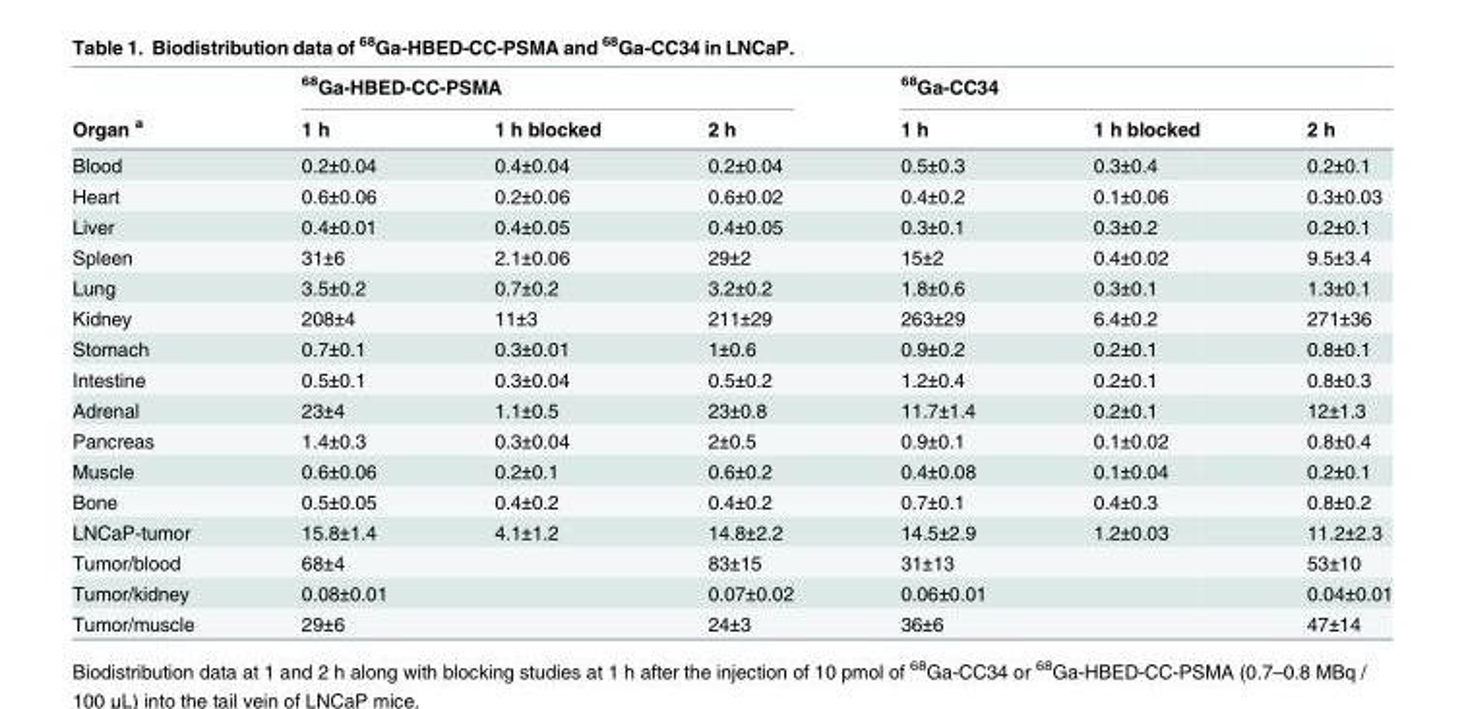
<table><thead><tr><td rowspan="2">Organ <sup>a</sup></td><td colspan="3"><sup>68</sup>Ga-HBED-CC-PSMA</td><td colspan="3"><sup>68</sup>Ga-CC34</td></tr><tr><td>1 h</td><td>1 h blocked</td><td>2 h</td><td>1 h</td><td>1 h blocked</td><td>2 h</td></tr></thead><tbody><tr><td>Blood</td><td>0.2±0.04</td><td>0.4±0.04</td><td>0.2±0.04</td><td>0.5±0.3</td><td>0.3±0.4</td><td>0.2±0.1</td></tr><tr><td>Heart</td><td>0.6±0.06</td><td>0.2±0.06</td><td>0.6±0.02</td><td>0.4±0.2</td><td>0.1±0.06</td><td>0.3±0.03</td></tr><tr><td>Liver</td><td>0.4±0.01</td><td>0.4±0.05</td><td>0.4±0.05</td><td>0.3±0.1</td><td>0.3±0.2</td><td>0.2±0.1</td></tr><tr><td>Spleen</td><td>31±6</td><td>2.1±0.06</td><td>29±2</td><td>15±2</td><td>0.4±0.02</td><td>9.5±3.4</td></tr><tr><td>Lung</td><td>3.5±0.2</td><td>0.7±0.2</td><td>3.2±0.2</td><td>1.8±0.6</td><td>0.3±0.1</td><td>1.3±0.1</td></tr><tr><td>Kidney</td><td>208±4</td><td>11±3</td><td>211±29</td><td>263±29</td><td>6.4±0.2</td><td>271±36</td></tr><tr><td>Stomach</td><td>0.7±0.1</td><td>0.3±0.01</td><td>1±0.6</td><td>0.9±0.2</td><td>0.2±0.1</td><td>0.8±0.1</td></tr><tr><td>Intestine</td><td>0.5±0.1</td><td>0.3±0.04</td><td>0.5±0.2</td><td>1.2±0.4</td><td>0.2±0.1</td><td>0.8±0.3</td></tr><tr><td>Adrenal</td><td>23±4</td><td>1.1±0.5</td><td>23±0.8</td><td>11.7±1.4</td><td>0.2±0.1</td><td>12±1.3</td></tr><tr><td>Pancreas</td><td>1.4±0.3</td><td>0.3±0.04</td><td>2±0.5</td><td>0.9±0.1</td><td>0.1±0.02</td><td>0.8±0.4</td></tr><tr><td>Muscle</td><td>0.6±0.06</td><td>0.2±0.1</td><td>0.6±0.2</td><td>0.4±0.08</td><td>0.1±0.04</td><td>0.2±0.1</td></tr><tr><td>Bone</td><td>0.5±0.05</td><td>0.4±0.2</td><td>0.4±0.2</td><td>0.7±0.1</td><td>0.4±0.3</td><td>0.8±0.2</td></tr><tr><td>LNCaP-tumor</td><td>15.8±1.4</td><td>4.1±1.2</td><td>14.8±2.2</td><td>14.5±2.9</td><td>1.2±0.03</td><td>11.2±2.3</td></tr><tr><td>Tumor/blood</td><td>68±4</td><td></td><td>83±15</td><td>31±13</td><td></td><td>53±10</td></tr><tr><td>Tumor/kidney</td><td>0.08±0.01</td><td></td><td>0.07±0.02</td><td>0.06±0.01</td><td></td><td>0.04±0.01</td></tr><tr><td>Tumor/muscle</td><td>29±6</td><td></td><td>24±3</td><td>36±6</td><td></td><td>47±14</td></tr></tbody></table>